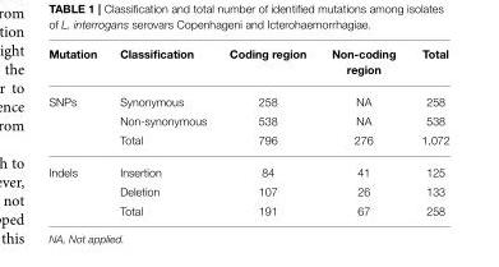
<table><thead><tr><td>Mutation</td><td>Classification</td><td>Coding region</td><td>Non-coding region</td><td>Total</td></tr></thead><tbody><tr><td rowspan="3">SNPs</td><td>Synonymous</td><td>258</td><td>NA</td><td>258</td></tr><tr><td>Non-synonymous</td><td>538</td><td>NA</td><td>538</td></tr><tr><td>Total</td><td>796</td><td>276</td><td>1,072</td></tr><tr><td rowspan="3">Indels</td><td>Insertion</td><td>84</td><td>41</td><td>125</td></tr><tr><td>Deletion</td><td>107</td><td>26</td><td>133</td></tr><tr><td>Total</td><td>191</td><td>67</td><td>258</td></tr></tbody></table>